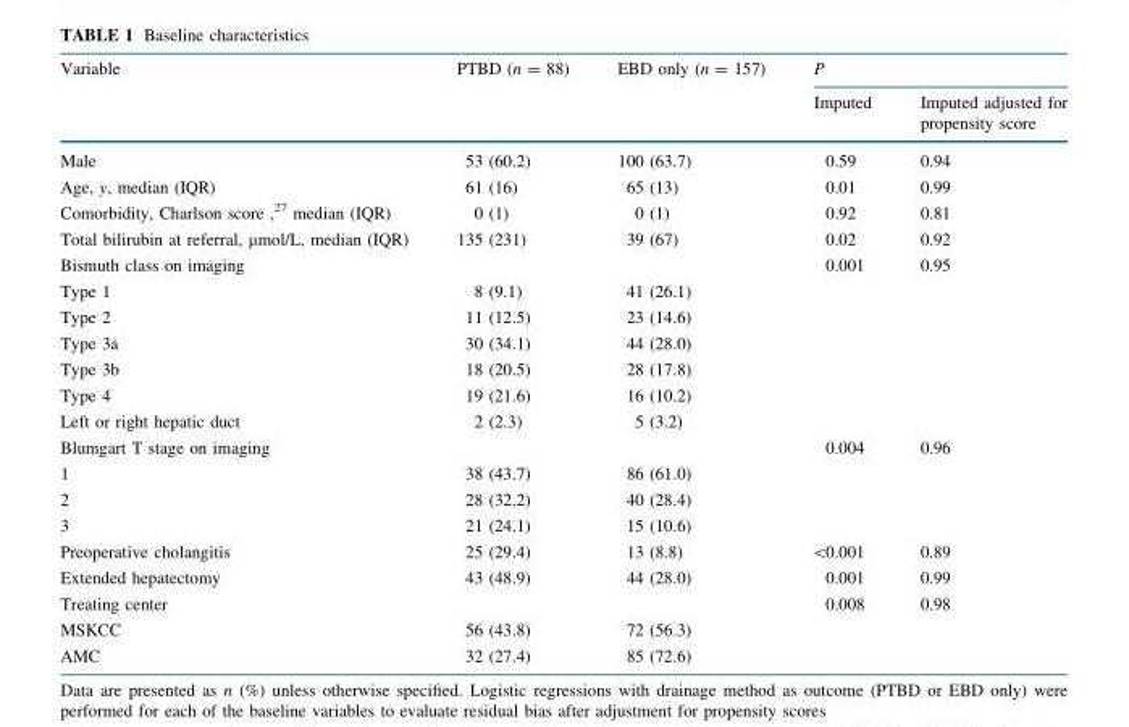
<table><thead><tr><td rowspan="2">Variable</td><td rowspan="2">PTBD (n = 88)</td><td rowspan="2">EBD only (n = 157)</td><td colspan="2">P</td></tr><tr><td>Imputed</td><td>Imputed adjusted for propensity score</td></tr></thead><tbody><tr><td>Male</td><td>53 (60.2)</td><td>100 (63.7)</td><td>0.59</td><td>0.94</td></tr><tr><td>Age, y, median (IQR)</td><td>61 (16)</td><td>65 (13)</td><td>0.01</td><td>0.99</td></tr><tr><td>Comorbidity, Charlson score ,<sup>27</sup> median (IQR)</td><td>0 (1)</td><td>0 (1)</td><td>0.92</td><td>0.81</td></tr><tr><td>Total bilirubin at referral, μmol/L, median (IQR)</td><td>135 (231)</td><td>39 (67)</td><td>0.02</td><td>0.92</td></tr><tr><td>Bismuth class on imaging</td><td></td><td></td><td>0.001</td><td>0.95</td></tr><tr><td>Type 1</td><td>8 (9.1)</td><td>41 (26.1)</td><td></td><td></td></tr><tr><td>Type 2</td><td>11 (12.5)</td><td>23 (14.6)</td><td></td><td></td></tr><tr><td>Type 3a</td><td>30 (34.1)</td><td>44 (28.0)</td><td></td><td></td></tr><tr><td>Type 3b</td><td>18 (20.5)</td><td>28 (17.8)</td><td></td><td></td></tr><tr><td>Type 4</td><td>19 (21.6)</td><td>16 (10.2)</td><td></td><td></td></tr><tr><td>Left or right hepatic duct</td><td>2 (2.3)</td><td>5 (3.2)</td><td></td><td></td></tr><tr><td>Blumgart T stage on imaging</td><td></td><td></td><td>0.004</td><td>0.96</td></tr><tr><td>1</td><td>38 (43.7)</td><td>86 (61.0)</td><td></td><td></td></tr><tr><td>2</td><td>28 (32.2)</td><td>40 (28.4)</td><td></td><td></td></tr><tr><td>3</td><td>21 (24.1)</td><td>15 (10.6)</td><td></td><td></td></tr><tr><td>Preoperative cholangitis</td><td>25 (29.4)</td><td>13 (8.8)</td><td>&lt;0.001</td><td>0.89</td></tr><tr><td>Extended hepatectomy</td><td>43 (48.9)</td><td>44 (28.0)</td><td>0.001</td><td>0.99</td></tr><tr><td>Treating center</td><td></td><td></td><td>0.008</td><td>0.98</td></tr><tr><td>MSKCC</td><td>56 (43.8)</td><td>72 (56.3)</td><td></td><td></td></tr><tr><td>AMC</td><td>32 (27.4)</td><td>85 (72.6)</td><td></td><td></td></tr></tbody></table>